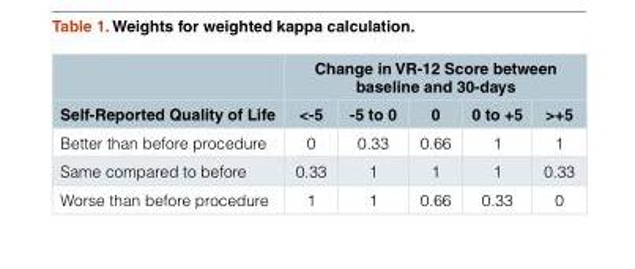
<table><thead><tr><td rowspan="2">Self-Reported Quality of Life</td><td colspan="5">Change in VR-12 Score between baseline and 30-days</td></tr><tr><td>&lt;-5</td><td>-5 to 0</td><td>0</td><td>0 to +5</td><td>&gt;+5</td></tr></thead><tbody><tr><td>Better than before procedure</td><td>0</td><td>0.33</td><td>0.66</td><td>1</td><td>1</td></tr><tr><td>Same compared to before</td><td>0.33</td><td>1</td><td>1</td><td>1</td><td>0.33</td></tr><tr><td>Worse than before procedure</td><td>1</td><td>1</td><td>0.66</td><td>0.33</td><td>0</td></tr></tbody></table>